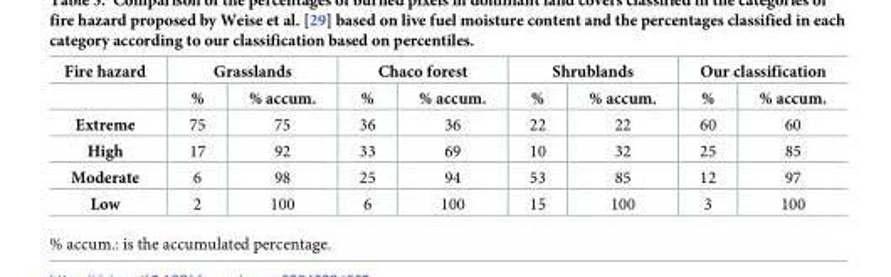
<table><thead><tr><td rowspan="2">Fire hazard</td><td colspan="2">Grasslands</td><td colspan="2">Chaco forest</td><td colspan="2">Shrublands</td><td colspan="2">Our classification</td></tr><tr><td>%</td><td>% accum.</td><td>%</td><td>% accum.</td><td>%</td><td>% accum.</td><td>%</td><td>% accum.</td></tr></thead><tbody><tr><td>Extreme</td><td>75</td><td>75</td><td>36</td><td>36</td><td>22</td><td>22</td><td>60</td><td>60</td></tr><tr><td>High</td><td>17</td><td>92</td><td>33</td><td>69</td><td>10</td><td>32</td><td>25</td><td>85</td></tr><tr><td>Moderate</td><td>6</td><td>98</td><td>25</td><td>94</td><td>53</td><td>85</td><td>12</td><td>97</td></tr><tr><td>Low</td><td>2</td><td>100</td><td>6</td><td>100</td><td>15</td><td>100</td><td>3</td><td>100</td></tr></tbody></table>